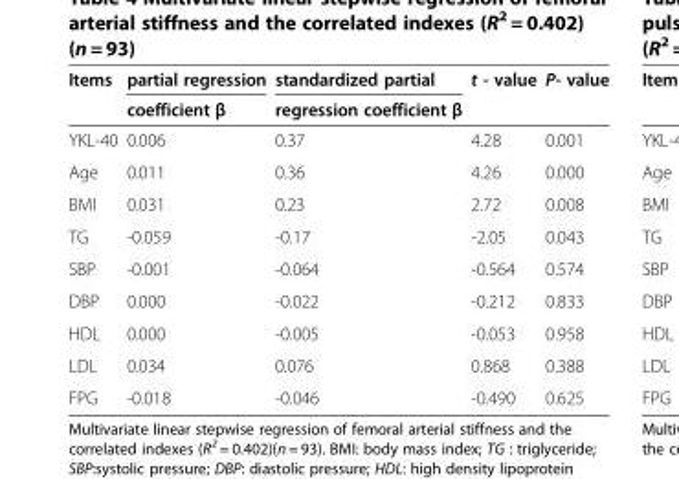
<table><thead><tr><td>Items</td><td>partial regression</td><td>standardized partial</td><td>t - value</td><td>P- value</td></tr></thead><tbody><tr><td></td><td>coefficient β</td><td>regression coefficient β</td><td></td><td></td></tr><tr><td>YKL-40</td><td>0.006</td><td>0.37</td><td>4.28</td><td>0.001</td></tr><tr><td>Age</td><td>0.011</td><td>0.36</td><td>4.26</td><td>0.000</td></tr><tr><td>BMI</td><td>0.031</td><td>0.23</td><td>2.72</td><td>0.008</td></tr><tr><td>TG</td><td>-0.059</td><td>-0.17</td><td>-2.05</td><td>0.043</td></tr><tr><td>SBP</td><td>-0.001</td><td>-0.064</td><td>-0.564</td><td>0.574</td></tr><tr><td>DBP</td><td>0.000</td><td>-0.022</td><td>-0.212</td><td>0.833</td></tr><tr><td>HDL</td><td>0.000</td><td>-0.005</td><td>-0.053</td><td>0.958</td></tr><tr><td>LDL</td><td>0.034</td><td>0.076</td><td>0.868</td><td>0.388</td></tr><tr><td>FPG</td><td>-0.018</td><td>-0.046</td><td>-0.490</td><td>0.625</td></tr></tbody></table>